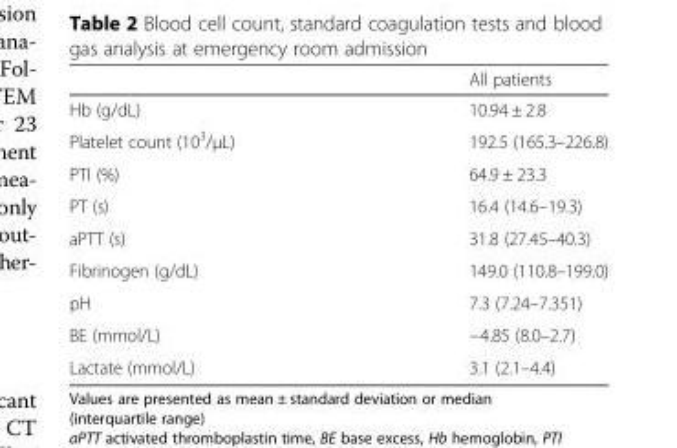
<table><thead><tr><td></td><td>All patients</td></tr></thead><tbody><tr><td>Hb (g/dL)</td><td>10.94 ± 2.8</td></tr><tr><td>Platelet count (10<sup>3</sup>/μL)</td><td>192.5 (165.3–226.8)</td></tr><tr><td>PTI (%)</td><td>64.9 ± 23.3</td></tr><tr><td>PT (s)</td><td>16.4 (14.6–19.3)</td></tr><tr><td>aPTT (s)</td><td>31.8 (27.45–40.3)</td></tr><tr><td>Fibrinogen (g/dL)</td><td>149.0 (110.8–199.0)</td></tr><tr><td>pH</td><td>7.3 (7.24–7.351)</td></tr><tr><td>BE (mmol/L)</td><td>−4.85 (8.0–2.7)</td></tr><tr><td>Lactate (mmol/L)</td><td>3.1 (2.1–4.4)</td></tr></tbody></table>